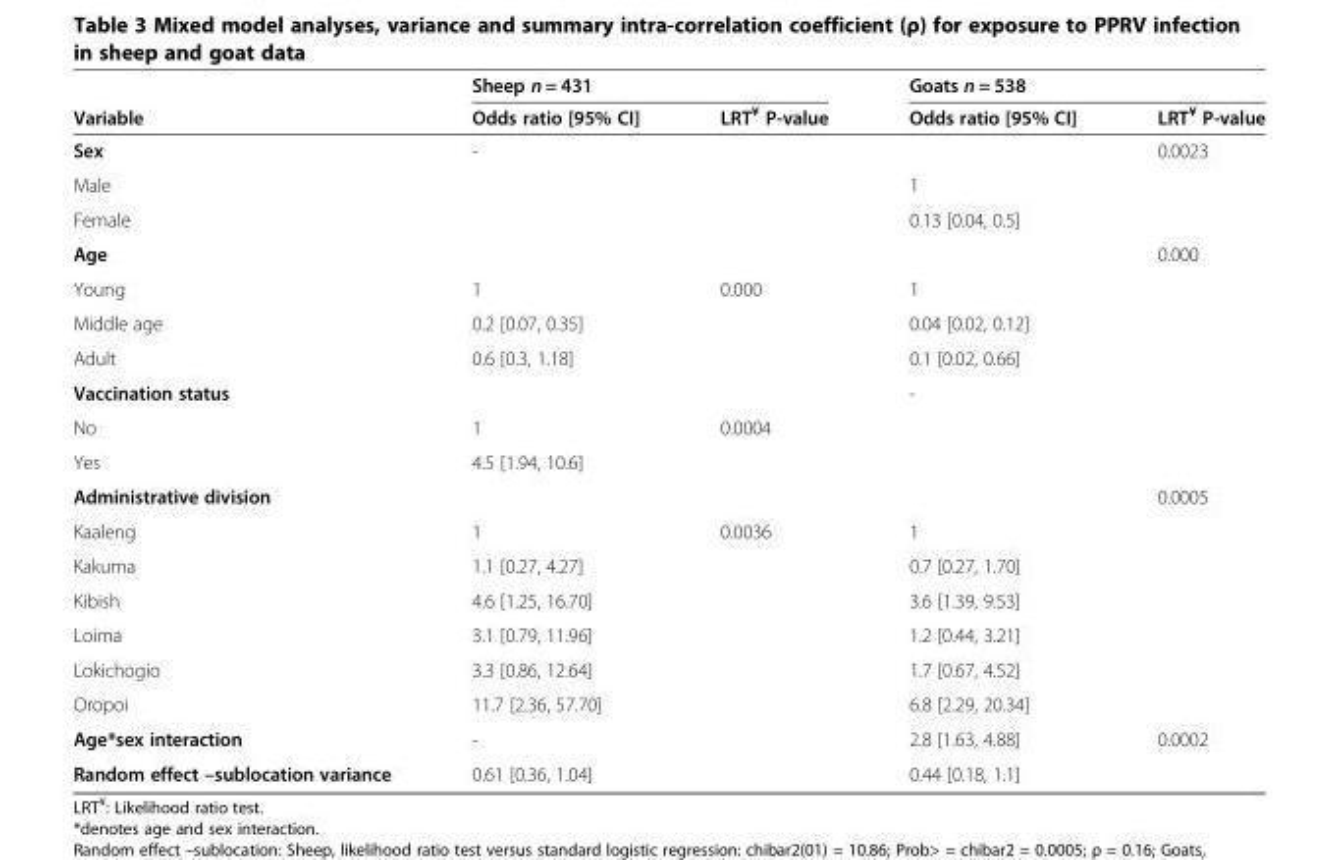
<table><thead><tr><td rowspan="2">Variable</td><td colspan="2">Sheep n = 431</td><td colspan="2">Goats n = 538</td></tr><tr><td>Odds ratio [95% CI]</td><td>LRT<sup>¥</sup> P-value</td><td>Odds ratio [95% CI]</td><td>LRT<sup>¥</sup> P-value</td></tr></thead><tbody><tr><td>Sex</td><td>-</td><td></td><td></td><td>0.0023</td></tr><tr><td>Male</td><td></td><td></td><td>1</td><td></td></tr><tr><td>Female</td><td></td><td></td><td>0.13 [0.04, 0.5]</td><td></td></tr><tr><td>Age</td><td></td><td></td><td></td><td>0.000</td></tr><tr><td>Young</td><td>1</td><td>0.000</td><td>1</td><td></td></tr><tr><td>Middle age</td><td>0.2 [0.07, 0.35]</td><td></td><td>0.04 [0.02, 0.12]</td><td></td></tr><tr><td>Adult</td><td>0.6 [0.3, 1.18]</td><td></td><td>0.1 [0.02, 0.66]</td><td></td></tr><tr><td>Vaccination status</td><td></td><td></td><td>-</td><td></td></tr><tr><td>No</td><td>1</td><td>0.0004</td><td></td><td></td></tr><tr><td>Yes</td><td>4.5 [1.94, 10.6]</td><td></td><td></td><td></td></tr><tr><td>Administrative division</td><td></td><td></td><td></td><td>0.0005</td></tr><tr><td>Kaaleng</td><td>1</td><td>0.0036</td><td>1</td><td></td></tr><tr><td>Kakuma</td><td>1.1 [0.27, 4.27]</td><td></td><td>0.7 [0.27, 1.70]</td><td></td></tr><tr><td>Kibish</td><td>4.6 [1.25, 16.70]</td><td></td><td>3.6 [1.39, 9.53]</td><td></td></tr><tr><td>Loima</td><td>3.1 [0.79, 11.96]</td><td></td><td>1.2 [0.44, 3.21]</td><td></td></tr><tr><td>Lokichogio</td><td>3.3 [0.86, 12.64]</td><td></td><td>1.7 [0.67, 4.52]</td><td></td></tr><tr><td>Oropoi</td><td>11.7 [2.36, 57.70]</td><td></td><td>6.8 [2.29, 20.34]</td><td></td></tr><tr><td>Age*sex interaction</td><td>-</td><td></td><td>2.8 [1.63, 4.88]</td><td>0.0002</td></tr><tr><td>Random effect –sublocation variance</td><td>0.61 [0.36, 1.04]</td><td></td><td>0.44 [0.18, 1.1]</td><td></td></tr></tbody></table>